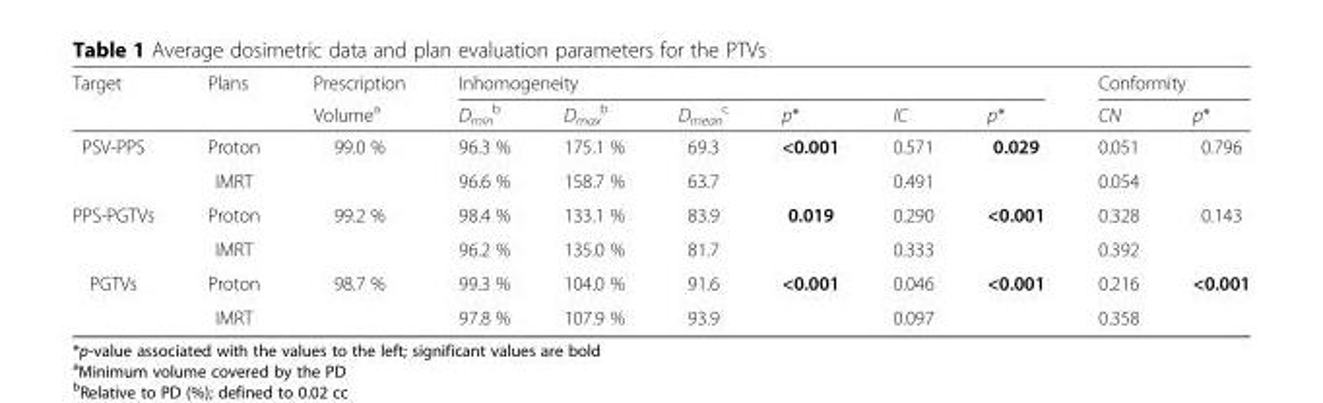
<table><thead><tr><td rowspan="2">Target</td><td rowspan="2">Plans</td><td rowspan="2">Prescription Volume<sup>a</sup></td><td colspan="6">Inhomogeneity</td><td colspan="2">Conformity</td></tr><tr><td>D<sub>min</sub> <sup>b</sup></td><td>D<sub>max</sub> <sup>b</sup></td><td>D<sub>mean</sub> <sup>c</sup></td><td>p*</td><td>IC</td><td>p*</td><td>CN</td><td>p*</td></tr></thead><tbody><tr><td rowspan="2">PSV-PPS</td><td>Proton</td><td rowspan="2">99.0 %</td><td>96.3 %</td><td>175.1 %</td><td>69.3</td><td rowspan="2">&lt;0.001</td><td>0.571</td><td rowspan="2">0.029</td><td>0.051</td><td rowspan="2">0.796</td></tr><tr><td>IMRT</td><td>96.6 %</td><td>158.7 %</td><td>63.7</td><td>0.491</td><td>0.054</td></tr><tr><td rowspan="2">PPS-PGTVs</td><td>Proton</td><td rowspan="2">99.2 %</td><td>98.4 %</td><td>133.1 %</td><td>83.9</td><td rowspan="2">0.019</td><td>0.290</td><td rowspan="2">&lt;0.001</td><td>0.328</td><td rowspan="2">0.143</td></tr><tr><td>IMRT</td><td>96.2 %</td><td>135.0 %</td><td>81.7</td><td>0.333</td><td>0.392</td></tr><tr><td rowspan="2">PGTVs</td><td>Proton</td><td rowspan="2">98.7 %</td><td>99.3 %</td><td>104.0 %</td><td>91.6</td><td rowspan="2">&lt;0.001</td><td>0.046</td><td rowspan="2">&lt;0.001</td><td>0.216</td><td rowspan="2">&lt;0.001</td></tr><tr><td>IMRT</td><td>97.8 %</td><td>107.9 %</td><td>93.9</td><td>0.097</td><td>0.358</td></tr></tbody></table>